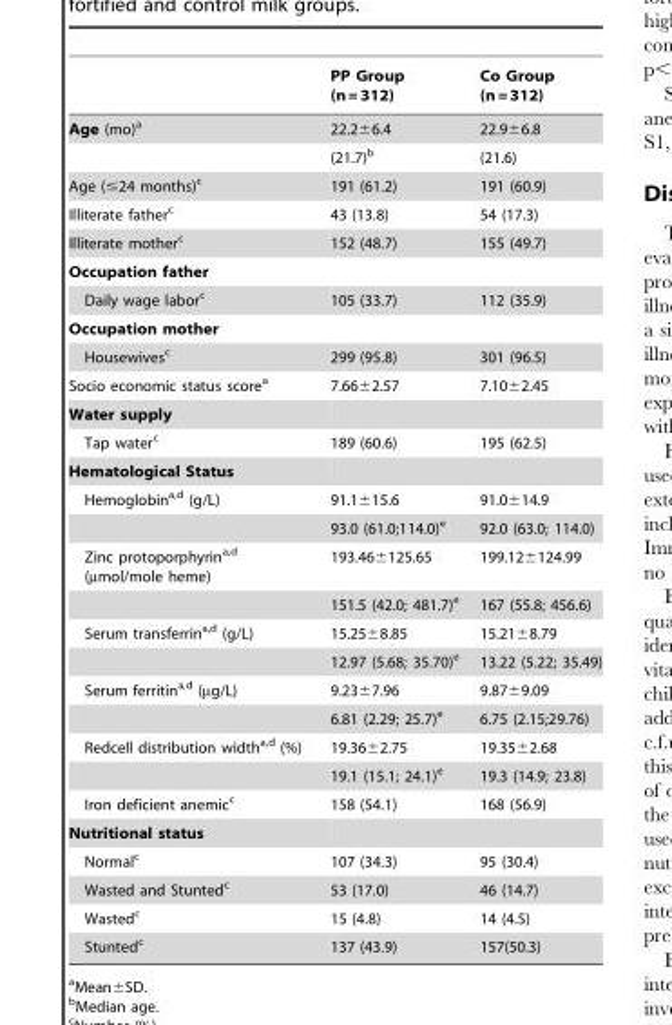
<table><thead><tr><td></td><td>PP Group (n = 312)</td><td>Co Group (n = 312)</td></tr></thead><tbody><tr><td rowspan="2">Age (mo)<sup>a</sup></td><td>22.2±6.4</td><td>22.9±6.8</td></tr><tr><td>(21.7)<sup>b</sup></td><td>(21.6)</td></tr><tr><td>Age (≤24 months)<sup>c</sup></td><td>191 (61.2)</td><td>191 (60.9)</td></tr><tr><td>Illiterate father<sup>c</sup></td><td>43 (13.8)</td><td>54 (17.3)</td></tr><tr><td>Illiterate mother<sup>c</sup></td><td>152 (48.7)</td><td>155 (49.7)</td></tr><tr><td colspan="3">Occupation father</td></tr><tr><td>Daily wage labor<sup>c</sup></td><td>105 (33.7)</td><td>112 (35.9)</td></tr><tr><td colspan="3">Occupation mother</td></tr><tr><td>Housewives<sup>c</sup></td><td>299 (95.8)</td><td>301 (96.5)</td></tr><tr><td>Socio economic status score<sup>a</sup></td><td>7.66±2.57</td><td>7.10±2.45</td></tr><tr><td colspan="3">Water supply</td></tr><tr><td>Tap water<sup>c</sup></td><td>189 (60.6)</td><td>195 (62.5)</td></tr><tr><td colspan="3">Hematological Status</td></tr><tr><td rowspan="2">Hemoglobin<sup>a,</sup>d (g/L)</td><td>91.1±15.6</td><td>91.0±14.9</td></tr><tr><td>93.0 (61.0;114.0)<sup>e</sup></td><td>92.0 (63.0; 114.0)</td></tr><tr><td rowspan="2">Zinc protoporphyrin<sup>a,</sup>d (µmol/mole heme)</td><td>193.46±125.65</td><td>199.12±124.99</td></tr><tr><td>151.5 (42.0; 481.7)<sup>e</sup></td><td>167 (55.8; 456.6)</td></tr><tr><td rowspan="2">Serum transferrin<sup>a,</sup>d (g/L)</td><td>15.25±8.85</td><td>15.21±8.79</td></tr><tr><td>12.97 (5.68; 35.70)<sup>e</sup></td><td>13.22 (5.22; 35.49)</td></tr><tr><td rowspan="2">Serum ferritin<sup>a,</sup>d (µg/L)</td><td>9.23±7.96</td><td>9.87±9.09</td></tr><tr><td>6.81 (2.29; 25.7)<sup>e</sup></td><td>6.75 (2.15;29.76)</td></tr><tr><td rowspan="2">Redcell distribution width<sup>a,</sup>d (%)</td><td>19.36±2.75</td><td>19.35±2.68</td></tr><tr><td>19.1 (15.1; 24.1)<sup>e</sup></td><td>19.3 (14.9; 23.8)</td></tr><tr><td>Iron deficient anemic<sup>c</sup></td><td>158 (54.1)</td><td>168 (56.9)</td></tr><tr><td colspan="3">Nutritional status</td></tr><tr><td>Normal<sup>c</sup></td><td>107 (34.3)</td><td>95 (30.4)</td></tr><tr><td>Wasted and Stunted<sup>c</sup></td><td>53 (17.0)</td><td>46 (14.7)</td></tr><tr><td>Wasted<sup>c</sup></td><td>15 (4.8)</td><td>14 (4.5)</td></tr><tr><td>Stunted<sup>c</sup></td><td>137 (43.9)</td><td>157(50.3)</td></tr></tbody></table>